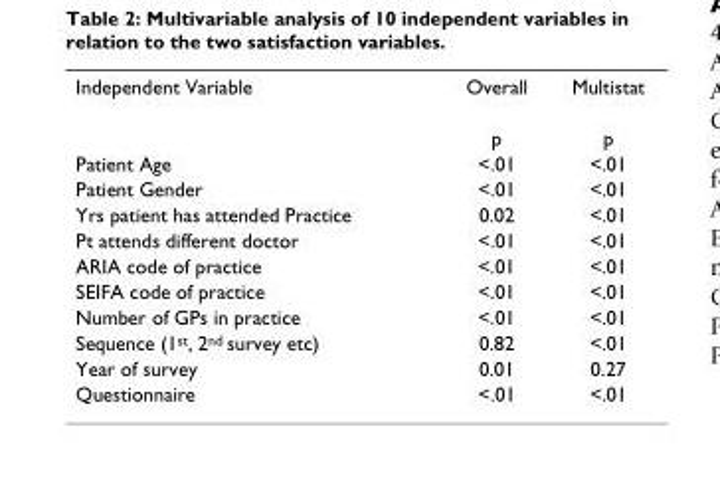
<table><tbody><tr><td rowspan="2">Independent Variable</td><td>Overall</td><td>Multistat</td></tr><tr><td>p</td><td>p</td></tr><tr><td>Patient Age</td><td>&lt;.01</td><td>&lt;.01</td></tr><tr><td>Patient Gender</td><td>&lt;.01</td><td>&lt;.01</td></tr><tr><td>Yrs patient has attended Practice</td><td>0.02</td><td>&lt;.01</td></tr><tr><td>Pt attends different doctor</td><td>&lt;.01</td><td>&lt;.01</td></tr><tr><td>ARIA code of practice</td><td>&lt;.01</td><td>&lt;.01</td></tr><tr><td>SEIFA code of practice</td><td>&lt;.01</td><td>&lt;.01</td></tr><tr><td>Number of GPs in practice</td><td>&lt;.01</td><td>&lt;.01</td></tr><tr><td>Sequence (1<sup>st</sup>, 2<sup>nd</sup> survey etc)</td><td>0.82</td><td>&lt;.01</td></tr><tr><td>Year of survey</td><td>0.01</td><td>0.27</td></tr><tr><td>Questionnaire</td><td>&lt;.01</td><td>&lt;.01</td></tr></tbody></table>